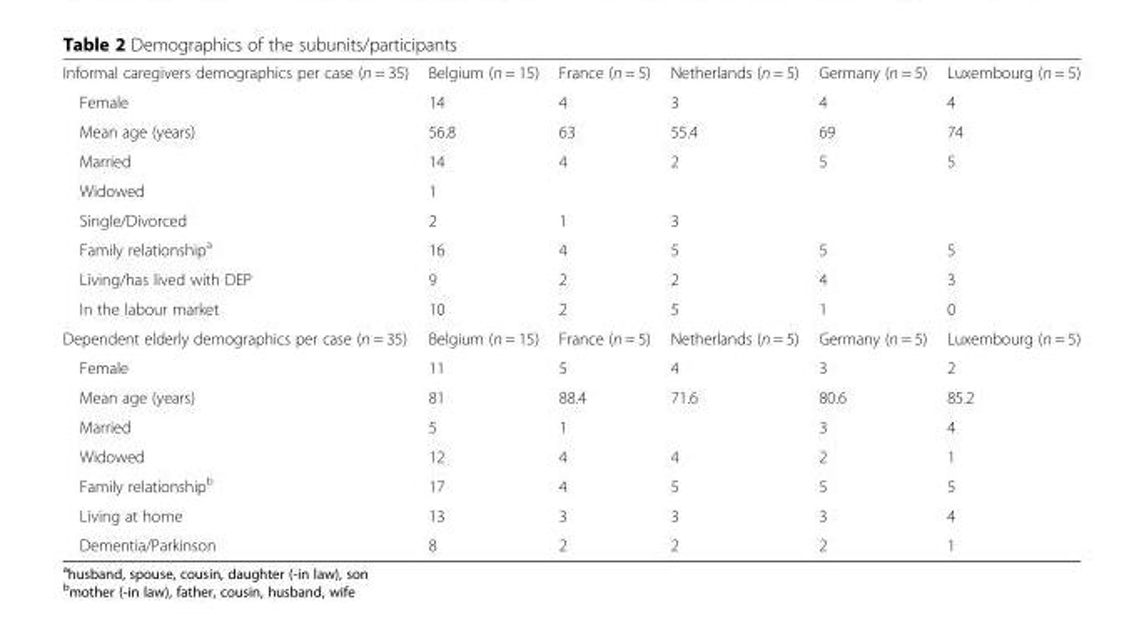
<table><tbody><tr><td>Informal caregivers demographics per case (n = 35)</td><td>Belgium (n = 15)</td><td>France (n = 5)</td><td>Netherlands (n = 5)</td><td>Germany (n = 5)</td><td>Luxembourg (n = 5)</td></tr><tr><td>Female</td><td>14</td><td>4</td><td>3</td><td>4</td><td>4</td></tr><tr><td>Mean age (years)</td><td>56.8</td><td>63</td><td>55.4</td><td>69</td><td>74</td></tr><tr><td>Married</td><td>14</td><td>4</td><td>2</td><td>5</td><td>5</td></tr><tr><td>Widowed</td><td>1</td><td></td><td></td><td></td><td></td></tr><tr><td>Single/Divorced</td><td>2</td><td>1</td><td>3</td><td></td><td></td></tr><tr><td>Family relationship<sup>a</sup></td><td>16</td><td>4</td><td>5</td><td>5</td><td>5</td></tr><tr><td>Living/has lived with DEP</td><td>9</td><td>2</td><td>2</td><td>4</td><td>3</td></tr><tr><td>In the labour market</td><td>10</td><td>2</td><td>5</td><td>1</td><td>0</td></tr><tr><td>Dependent elderly demographics per case (n = 35)</td><td>Belgium (n = 15)</td><td>France (n = 5)</td><td>Netherlands (n = 5)</td><td>Germany (n = 5)</td><td>Luxembourg (n = 5)</td></tr><tr><td>Female</td><td>11</td><td>5</td><td>4</td><td>3</td><td>2</td></tr><tr><td>Mean age (years)</td><td>81</td><td>88.4</td><td>71.6</td><td>80.6</td><td>85.2</td></tr><tr><td>Married</td><td>5</td><td>1</td><td></td><td>3</td><td>4</td></tr><tr><td>Widowed</td><td>12</td><td>4</td><td>4</td><td>2</td><td>1</td></tr><tr><td>Family relationship<sup>b</sup></td><td>17</td><td>4</td><td>5</td><td>5</td><td>5</td></tr><tr><td>Living at home</td><td>13</td><td>3</td><td>3</td><td>3</td><td>4</td></tr><tr><td>Dementia/Parkinson</td><td>8</td><td>2</td><td>2</td><td>2</td><td>1</td></tr></tbody></table>